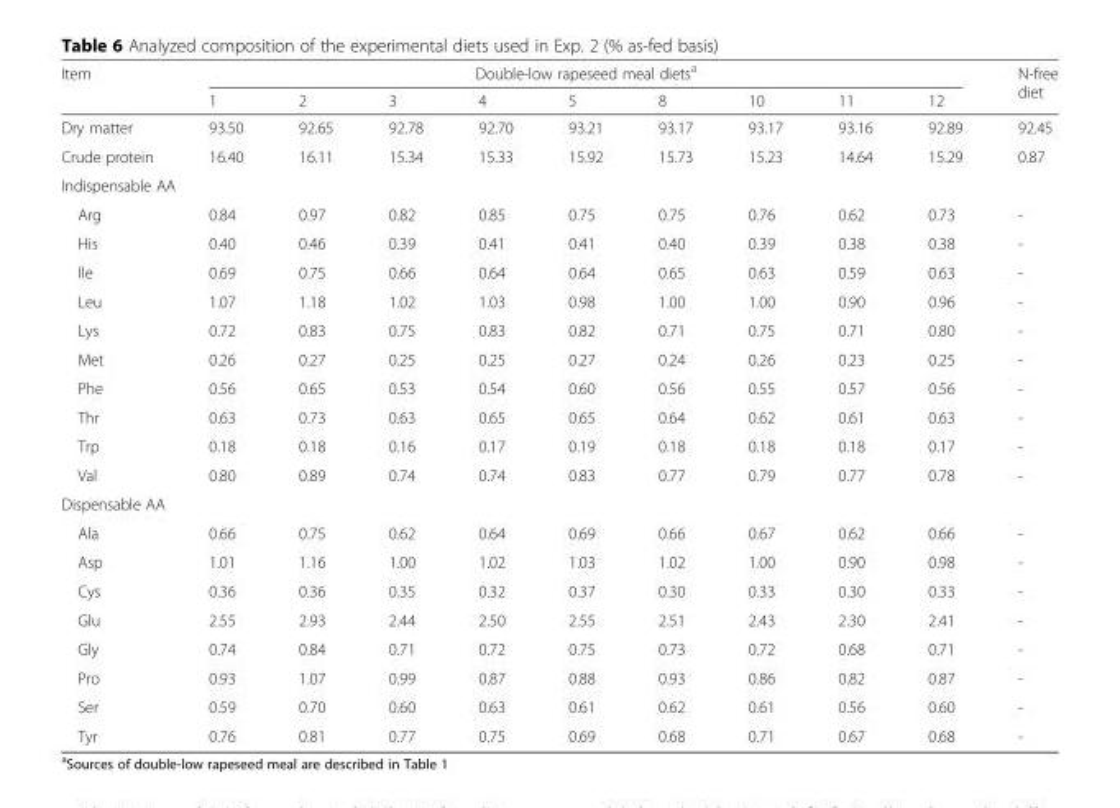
<table><thead><tr><td rowspan="2">Item</td><td colspan="9">Double-low rapeseed meal diets<sup>a</sup></td><td rowspan="2">N-free diet</td></tr><tr><td>1</td><td>2</td><td>3</td><td>4</td><td>5</td><td>8</td><td>10</td><td>11</td><td>12</td></tr></thead><tbody><tr><td>Dry matter</td><td>93.50</td><td>92.65</td><td>92.78</td><td>92.70</td><td>93.21</td><td>93.17</td><td>93.17</td><td>93.16</td><td>92.89</td><td>92.45</td></tr><tr><td>Crude protein</td><td>16.40</td><td>16.11</td><td>15.34</td><td>15.33</td><td>15.92</td><td>15.73</td><td>15.23</td><td>14.64</td><td>15.29</td><td>0.87</td></tr><tr><td colspan="11">Indispensable AA</td></tr><tr><td>Arg</td><td>0.84</td><td>0.97</td><td>0.82</td><td>0.85</td><td>0.75</td><td>0.75</td><td>0.76</td><td>0.62</td><td>0.73</td><td>-</td></tr><tr><td>His</td><td>0.40</td><td>0.46</td><td>0.39</td><td>0.41</td><td>0.41</td><td>0.40</td><td>0.39</td><td>0.38</td><td>0.38</td><td>-</td></tr><tr><td>Ile</td><td>0.69</td><td>0.75</td><td>0.66</td><td>0.64</td><td>0.64</td><td>0.65</td><td>0.63</td><td>0.59</td><td>0.63</td><td>-</td></tr><tr><td>Leu</td><td>1.07</td><td>1.18</td><td>1.02</td><td>1.03</td><td>0.98</td><td>1.00</td><td>1.00</td><td>0.90</td><td>0.96</td><td>-</td></tr><tr><td>Lys</td><td>0.72</td><td>0.83</td><td>0.75</td><td>0.83</td><td>0.82</td><td>0.71</td><td>0.75</td><td>0.71</td><td>0.80</td><td>-</td></tr><tr><td>Met</td><td>0.26</td><td>0.27</td><td>0.25</td><td>0.25</td><td>0.27</td><td>0.24</td><td>0.26</td><td>0.23</td><td>0.25</td><td>-</td></tr><tr><td>Phe</td><td>0.56</td><td>0.65</td><td>0.53</td><td>0.54</td><td>0.60</td><td>0.56</td><td>0.55</td><td>0.57</td><td>0.56</td><td>-</td></tr><tr><td>Thr</td><td>0.63</td><td>0.73</td><td>0.63</td><td>0.65</td><td>0.65</td><td>0.64</td><td>0.62</td><td>0.61</td><td>0.63</td><td>-</td></tr><tr><td>Trp</td><td>0.18</td><td>0.18</td><td>0.16</td><td>0.17</td><td>0.19</td><td>0.18</td><td>0.18</td><td>0.18</td><td>0.17</td><td>-</td></tr><tr><td>Val</td><td>0.80</td><td>0.89</td><td>0.74</td><td>0.74</td><td>0.83</td><td>0.77</td><td>0.79</td><td>0.77</td><td>0.78</td><td>-</td></tr><tr><td colspan="11">Dispensable AA</td></tr><tr><td>Ala</td><td>0.66</td><td>0.75</td><td>0.62</td><td>0.64</td><td>0.69</td><td>0.66</td><td>0.67</td><td>0.62</td><td>0.66</td><td>-</td></tr><tr><td>Asp</td><td>1.01</td><td>1.16</td><td>1.00</td><td>1.02</td><td>1.03</td><td>1.02</td><td>1.00</td><td>0.90</td><td>0.98</td><td>-</td></tr><tr><td>Cys</td><td>0.36</td><td>0.36</td><td>0.35</td><td>0.32</td><td>0.37</td><td>0.30</td><td>0.33</td><td>0.30</td><td>0.33</td><td>-</td></tr><tr><td>Glu</td><td>2.55</td><td>2.93</td><td>2.44</td><td>2.50</td><td>2.55</td><td>2.51</td><td>2.43</td><td>2.30</td><td>2.41</td><td>-</td></tr><tr><td>Gly</td><td>0.74</td><td>0.84</td><td>0.71</td><td>0.72</td><td>0.75</td><td>0.73</td><td>0.72</td><td>0.68</td><td>0.71</td><td>-</td></tr><tr><td>Pro</td><td>0.93</td><td>1.07</td><td>0.99</td><td>0.87</td><td>0.88</td><td>0.93</td><td>0.86</td><td>0.82</td><td>0.87</td><td>-</td></tr><tr><td>Ser</td><td>0.59</td><td>0.70</td><td>0.60</td><td>0.63</td><td>0.61</td><td>0.62</td><td>0.61</td><td>0.56</td><td>0.60</td><td>-</td></tr><tr><td>Tyr</td><td>0.76</td><td>0.81</td><td>0.77</td><td>0.75</td><td>0.69</td><td>0.68</td><td>0.71</td><td>0.67</td><td>0.68</td><td>-</td></tr></tbody></table>